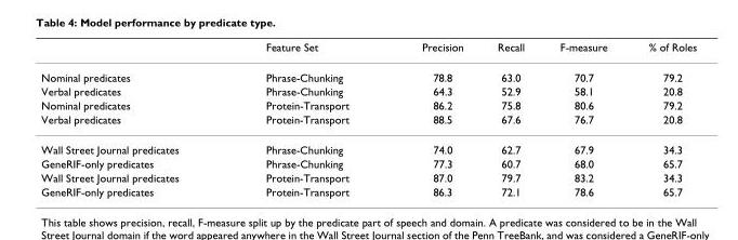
<table><thead><tr><td></td><td>Feature Set</td><td>Precision</td><td>Recall</td><td>F-measure</td><td>% of Roles</td></tr></thead><tbody><tr><td>Nominal predicates</td><td>Phrase-Chunking</td><td>78.8</td><td>63.0</td><td>70.7</td><td>79.2</td></tr><tr><td>Verbal predicates</td><td>Phrase-Chunking</td><td>64.3</td><td>52.9</td><td>58.1</td><td>20.8</td></tr><tr><td>Nominal predicates</td><td>Protein-Transport</td><td>86.2</td><td>75.8</td><td>80.6</td><td>79.2</td></tr><tr><td>Verbal predicates</td><td>Protein-Transport</td><td>88.5</td><td>67.6</td><td>76.7</td><td>20.8</td></tr><tr><td>Wall Street Journal predicates</td><td>Phrase-Chunking</td><td>74.0</td><td>62.7</td><td>67.9</td><td>34.3</td></tr><tr><td>GeneRIF-only predicates</td><td>Phrase-Chunking</td><td>77.3</td><td>60.7</td><td>68.0</td><td>65.7</td></tr><tr><td>Wall Street Journal predicates</td><td>Protein-Transport</td><td>87.0</td><td>79.7</td><td>83.2</td><td>34.3</td></tr><tr><td>GeneRIF-only predicates</td><td>Protein-Transport</td><td>86.3</td><td>72.1</td><td>78.6</td><td>65.7</td></tr></tbody></table>